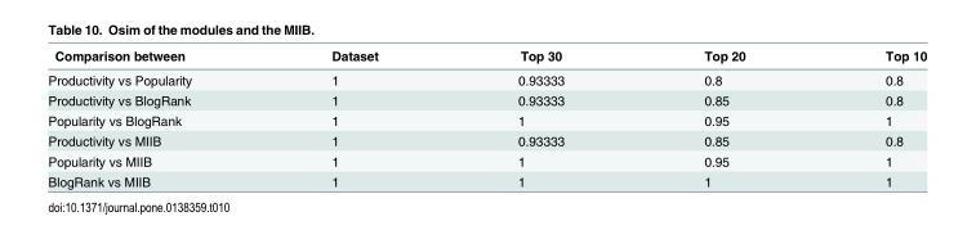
<table><thead><tr><td>Comparison between</td><td>Dataset</td><td>Top 30</td><td>Top 20</td><td>Top 10</td></tr></thead><tbody><tr><td>Productivity vs Popularity</td><td>1</td><td>0.93333</td><td>0.8</td><td>0.8</td></tr><tr><td>Productivity vs BlogRank</td><td>1</td><td>0.93333</td><td>0.85</td><td>0.8</td></tr><tr><td>Popularity vs BlogRank</td><td>1</td><td>1</td><td>0.95</td><td>1</td></tr><tr><td>Productivity vs MIIB</td><td>1</td><td>0.93333</td><td>0.85</td><td>0.8</td></tr><tr><td>Popularity vs MIIB</td><td>1</td><td>1</td><td>0.95</td><td>1</td></tr><tr><td>BlogRank vs MIIB</td><td>1</td><td>1</td><td>1</td><td>1</td></tr></tbody></table>